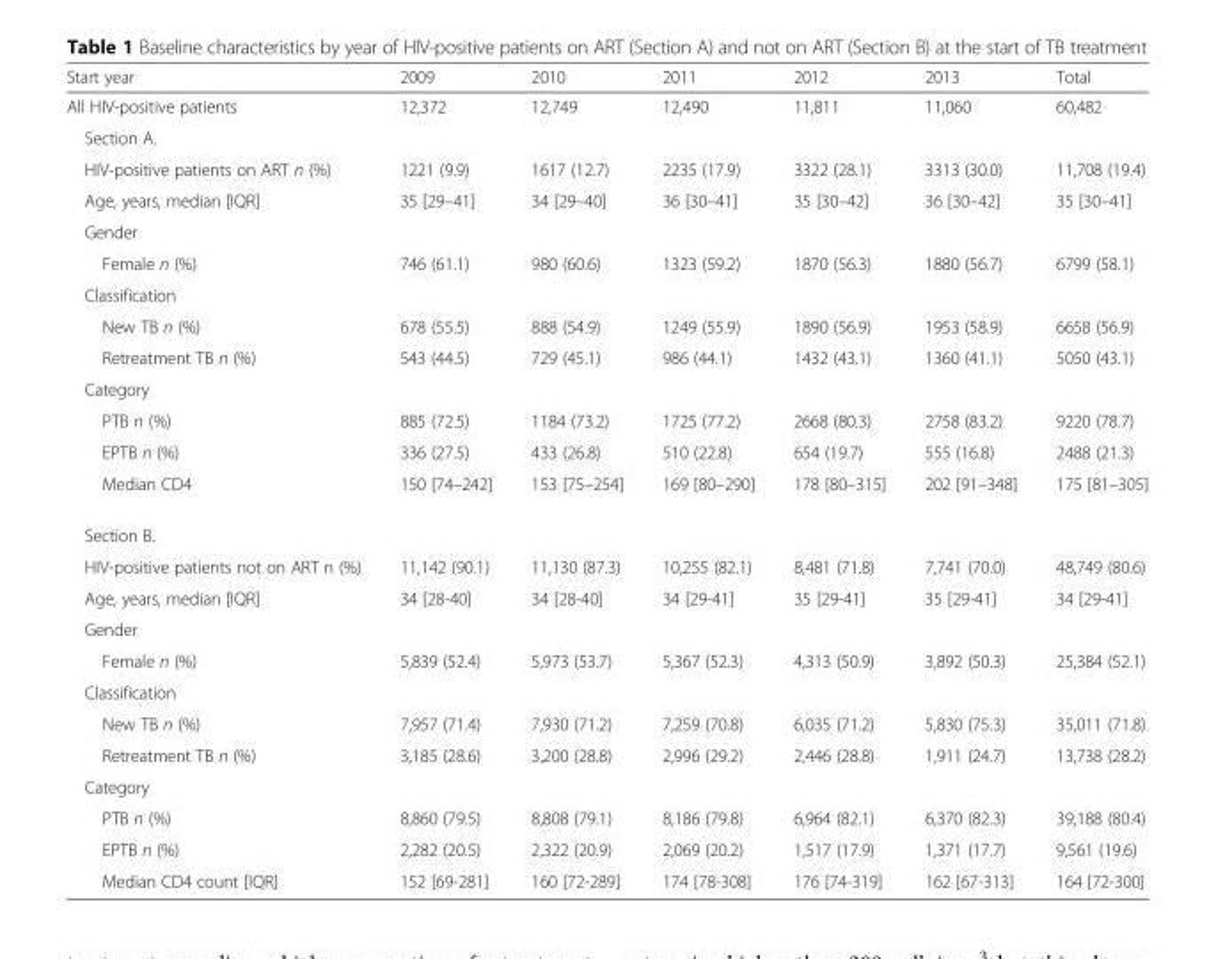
<table><thead><tr><td>Start year</td><td>2009</td><td>2010</td><td>2011</td><td>2012</td><td>2013</td><td>Total</td></tr></thead><tbody><tr><td>All HIV-positive patients</td><td>12,372</td><td>12,749</td><td>12,490</td><td>11,811</td><td>11,060</td><td>60,482</td></tr><tr><td colspan="7">Section A.</td></tr><tr><td>HIV-positive patients on ART n (%)</td><td>1221 (9.9)</td><td>1617 (12.7)</td><td>2235 (17.9)</td><td>3322 (28.1)</td><td>3313 (30.0)</td><td>11,708 (19.4)</td></tr><tr><td>Age, years, median [IQR]</td><td>35 [29–41]</td><td>34 [29–40]</td><td>36 [30–41]</td><td>35 [30–42]</td><td>36 [30–42]</td><td>35 [30–41]</td></tr><tr><td colspan="7">Gender</td></tr><tr><td>Female n (%)</td><td>746 (61.1)</td><td>980 (60.6)</td><td>1323 (59.2)</td><td>1870 (56.3)</td><td>1880 (56.7)</td><td>6799 (58.1)</td></tr><tr><td colspan="7">Classification</td></tr><tr><td>New TB n (%)</td><td>678 (55.5)</td><td>888 (54.9)</td><td>1249 (55.9)</td><td>1890 (56.9)</td><td>1953 (58.9)</td><td>6658 (56.9)</td></tr><tr><td>Retreatment TB n (%)</td><td>543 (44.5)</td><td>729 (45.1)</td><td>986 (44.1)</td><td>1432 (43.1)</td><td>1360 (41.1)</td><td>5050 (43.1)</td></tr><tr><td colspan="7">Category</td></tr><tr><td>PTB n (%)</td><td>885 (72.5)</td><td>1184 (73.2)</td><td>1725 (77.2)</td><td>2668 (80.3)</td><td>2758 (83.2)</td><td>9220 (78.7)</td></tr><tr><td>EPTB n (%)</td><td>336 (27.5)</td><td>433 (26.8)</td><td>510 (22.8)</td><td>654 (19.7)</td><td>555 (16.8)</td><td>2488 (21.3)</td></tr><tr><td>Median CD4</td><td>150 [74–242]</td><td>153 [75–254]</td><td>169 [80–290]</td><td>178 [80–315]</td><td>202 [91–348]</td><td>175 [81–305]</td></tr><tr><td colspan="7">Section B.</td></tr><tr><td>HIV-positive patients not on ART n (%)</td><td>11,142 (90.1)</td><td>11,130 (87.3)</td><td>10,255 (82.1)</td><td>8,481 (71.8)</td><td>7,741 (70.0)</td><td>48,749 (80.6)</td></tr><tr><td>Age, years, median [IQR]</td><td>34 [28-40]</td><td>34 [28-40]</td><td>34 [29-41]</td><td>35 [29-41]</td><td>35 [29-41]</td><td>34 [29-41]</td></tr><tr><td colspan="7">Gender</td></tr><tr><td>Female n (%)</td><td>5,839 (52.4)</td><td>5,973 (53.7)</td><td>5,367 (52.3)</td><td>4,313 (50.9)</td><td>3,892 (50.3)</td><td>25,384 (52.1)</td></tr><tr><td colspan="7">Classification</td></tr><tr><td>New TB n (%)</td><td>7,957 (71.4)</td><td>7,930 (71.2)</td><td>7,259 (70.8)</td><td>6,035 (71.2)</td><td>5,830 (75.3)</td><td>35,011 (71.8)</td></tr><tr><td>Retreatment TB n (%)</td><td>3,185 (28.6)</td><td>3,200 (28.8)</td><td>2,996 (29.2)</td><td>2,446 (28.8)</td><td>1,911 (24.7)</td><td>13,738 (28.2)</td></tr><tr><td colspan="7">Category</td></tr><tr><td>PTB n (%)</td><td>8,860 (79.5)</td><td>8,808 (79.1)</td><td>8,186 (79.8)</td><td>6,964 (82.1)</td><td>6,370 (82.3)</td><td>39,188 (80.4)</td></tr><tr><td>EPTB n (%)</td><td>2,282 (20.5)</td><td>2,322 (20.9)</td><td>2,069 (20.2)</td><td>1,517 (17.9)</td><td>1,371 (17.7)</td><td>9,561 (19.6)</td></tr><tr><td>Median CD4 count [IQR]</td><td>152 [69-281]</td><td>160 [72-289]</td><td>174 [78-308]</td><td>176 [74-319]</td><td>162 [67-313]</td><td>164 [72-300]</td></tr></tbody></table>